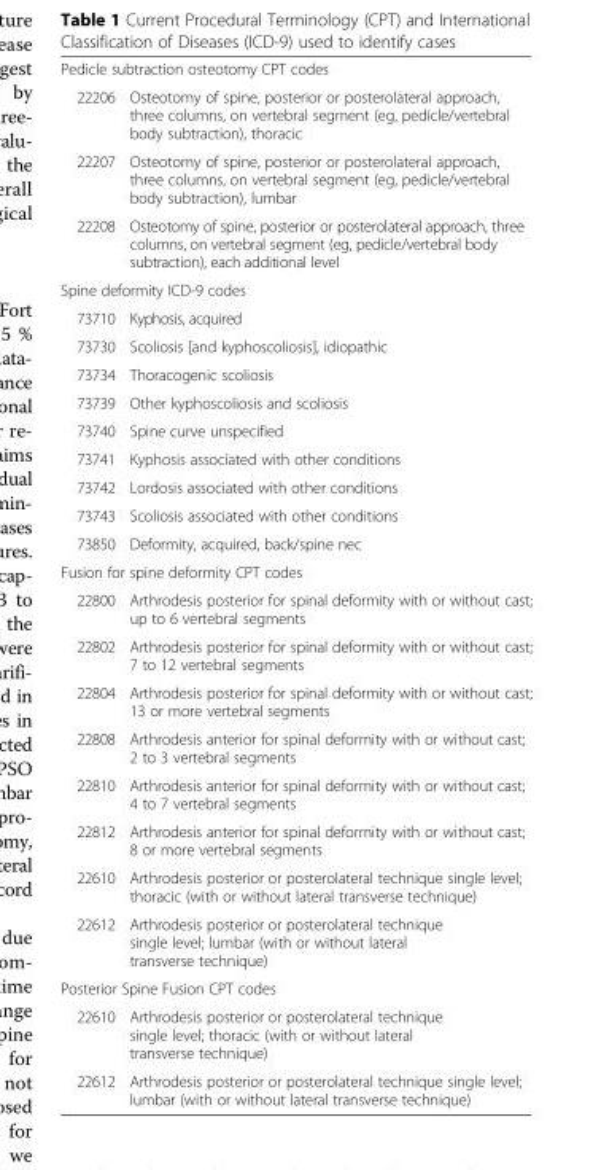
<table><tbody><tr><td colspan="2">Pedicle subtraction osteotomy CPT codes</td></tr><tr><td>22206</td><td>Osteotomy of spine, posterior or posterolateral approach, three columns, on vertebral segment (eg, pedicle/vertebral body subtraction), thoracic</td></tr><tr><td>22207</td><td>Osteotomy of spine, posterior or posterolateral approach, three columns, on vertebral segment (eg, pedicle/vertebral body subtraction), lumbar</td></tr><tr><td>22208</td><td>Osteotomy of spine, posterior or posterolateral approach, three columns, on vertebral segment (eg, pedicle/vertebral body subtraction), each additional level</td></tr><tr><td colspan="2">Spine deformity ICD-9 codes</td></tr><tr><td>73710</td><td>Kyphosis, acquired</td></tr><tr><td>73730</td><td>Scoliosis [and kyphoscoliosis], idiopathic</td></tr><tr><td>73734</td><td>Thoracogenic scoliosis</td></tr><tr><td>73739</td><td>Other kyphoscoliosis and scoliosis</td></tr><tr><td>73740</td><td>Spine curve unspecified</td></tr><tr><td>73741</td><td>Kyphosis associated with other conditions</td></tr><tr><td>73742</td><td>Lordosis associated with other conditions</td></tr><tr><td>73743</td><td>Scoliosis associated with other conditions</td></tr><tr><td>73850</td><td>Deformity, acquired, back/spine nec</td></tr><tr><td colspan="2">Fusion for spine deformity CPT codes</td></tr><tr><td>22800</td><td>Arthrodesis posterior for spinal deformity with or without cast; up to 6 vertebral segments</td></tr><tr><td>22802</td><td>Arthrodesis posterior for spinal deformity with or without cast; 7 to 12 vertebral segments</td></tr><tr><td>22804</td><td>Arthrodesis posterior for spinal deformity with or without cast; 13 or more vertebral segments</td></tr><tr><td>22808</td><td>Arthrodesis anterior for spinal deformity with or without cast; 2 to 3 vertebral segments</td></tr><tr><td>22810</td><td>Arthrodesis anterior for spinal deformity with or without cast; 4 to 7 vertebral segments</td></tr><tr><td>22812</td><td>Arthrodesis anterior for spinal deformity with or without cast; 8 or more vertebral segments</td></tr><tr><td>22610</td><td>Arthrodesis posterior or posterolateral technique single level; thoracic (with or without lateral transverse technique)</td></tr><tr><td>22612</td><td>Arthrodesis posterior or posterolateral technique single level; lumbar (with or without lateral transverse technique)</td></tr><tr><td colspan="2">Posterior Spine Fusion CPT codes</td></tr><tr><td>22610</td><td>Arthrodesis posterior or posterolateral technique single level; thoracic (with or without lateral transverse technique)</td></tr><tr><td>22612</td><td>Arthrodesis posterior or posterolateral technique single level; lumbar (with or without lateral transverse technique)</td></tr></tbody></table>